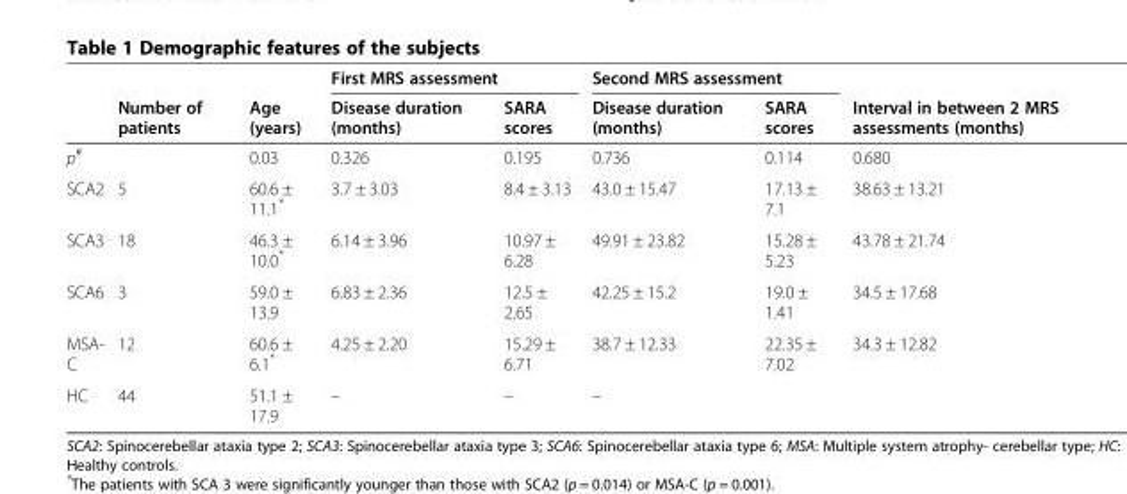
<table><thead><tr><td rowspan="2"></td><td rowspan="2">Number of patients</td><td rowspan="2">Age (years)</td><td colspan="2">First MRS assessment</td><td colspan="2">Second MRS assessment</td><td rowspan="2">Interval in between 2 MRS assessments (months)</td></tr><tr><td>Disease duration (months)</td><td>SARA scores</td><td>Disease duration (months)</td><td>SARA scores</td></tr></thead><tbody><tr><td>p<sup>#</sup></td><td></td><td>0.03</td><td>0.326</td><td>0.195</td><td>0.736</td><td>0.114</td><td>0.680</td></tr><tr><td>SCA2</td><td>5</td><td>60.6 ± 11.1*</td><td>3.7 ± 3.03</td><td>8.4 ± 3.13</td><td>43.0 ± 15.47</td><td>17.13 ± 7.1</td><td>38.63 ± 13.21</td></tr><tr><td>SCA3</td><td>18</td><td>46.3 ± 10.0*</td><td>6.14 ± 3.96</td><td>10.97 ± 6.28</td><td>49.91 ± 23.82</td><td>15.28 ± 5.23</td><td>43.78 ± 21.74</td></tr><tr><td>SCA6</td><td>3</td><td>59.0 ± 13.9</td><td>6.83 ± 2.36</td><td>12.5 ± 2.65</td><td>42.25 ± 15.2</td><td>19.0 ± 1.41</td><td>34.5 ± 17.68</td></tr><tr><td>MSA- C</td><td>12</td><td>60.6 ± 6.1*</td><td>4.25 ± 2.20</td><td>15.29 ± 6.71</td><td>38.7 ± 12.33</td><td>22.35 ± 7.02</td><td>34.3 ± 12.82</td></tr><tr><td>HC</td><td>44</td><td>51.1 ± 17.9</td><td>–</td><td>–</td><td>–</td><td></td><td></td></tr></tbody></table>